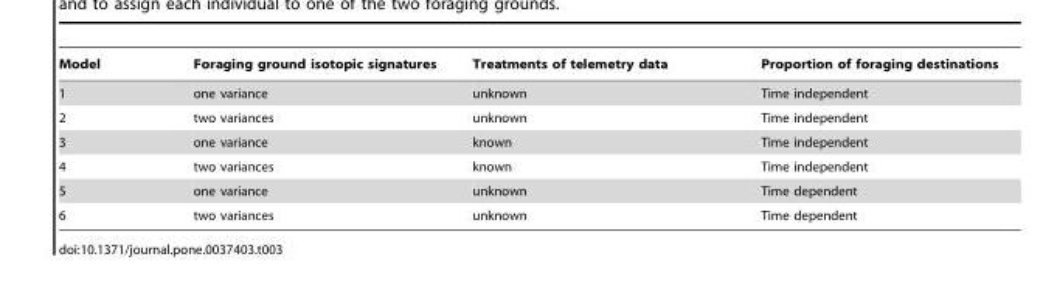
<table><thead><tr><td>Model</td><td>Foraging ground isotopic signatures</td><td>Treatments of telemetry data</td><td>Proportion of foraging destinations</td></tr></thead><tbody><tr><td>1</td><td>one variance</td><td>unknown</td><td>Time independent</td></tr><tr><td>2</td><td>two variances</td><td>unknown</td><td>Time independent</td></tr><tr><td>3</td><td>one variance</td><td>known</td><td>Time independent</td></tr><tr><td>4</td><td>two variances</td><td>known</td><td>Time independent</td></tr><tr><td>5</td><td>one variance</td><td>unknown</td><td>Time dependent</td></tr><tr><td>6</td><td>two variances</td><td>unknown</td><td>Time dependent</td></tr></tbody></table>